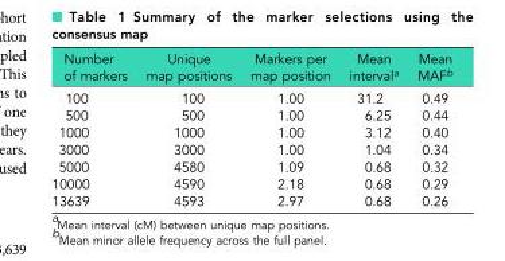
<table><thead><tr><td>Number of markers</td><td>Unique map positions</td><td>Markers per map position</td><td>Mean interval<sup>a</sup></td><td>Mean MAF<sup>b</sup></td></tr></thead><tbody><tr><td>100</td><td>100</td><td>1.00</td><td>31.2</td><td>0.49</td></tr><tr><td>500</td><td>500</td><td>1.00</td><td>6.25</td><td>0.44</td></tr><tr><td>1000</td><td>1000</td><td>1.00</td><td>3.12</td><td>0.40</td></tr><tr><td>3000</td><td>3000</td><td>1.00</td><td>1.04</td><td>0.34</td></tr><tr><td>5000</td><td>4580</td><td>1.09</td><td>0.68</td><td>0.32</td></tr><tr><td>10000</td><td>4590</td><td>2.18</td><td>0.68</td><td>0.29</td></tr><tr><td>13639</td><td>4593</td><td>2.97</td><td>0.68</td><td>0.26</td></tr></tbody></table>